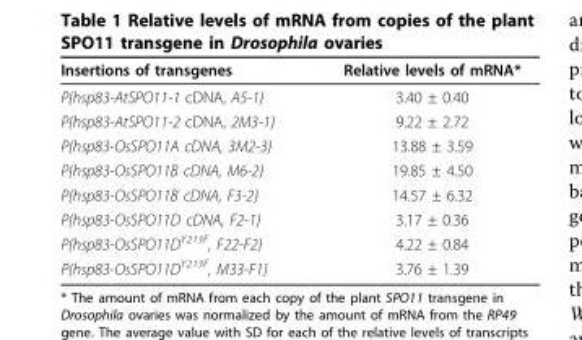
<table><thead><tr><td>Insertions of transgenes</td><td>Relative levels of mRNA*</td></tr></thead><tbody><tr><td>P{hsp83-AtSPO11-1 cDNA, A5-1}</td><td>3.40 ± 0.40</td></tr><tr><td>P{hsp83-AtSPO11-2 cDNA, 2M3-1}</td><td>9.22 ± 2.72</td></tr><tr><td>P{hsp83-OsSPO11A cDNA, 3M2-3}</td><td>13.88 ± 3.59</td></tr><tr><td>P{hsp83-OsSPO11B cDNA, M6-2}</td><td>19.85 ± 4.50</td></tr><tr><td>P{hsp83-OsSPO11B cDNA, F3-2}</td><td>14.57 ± 6.32</td></tr><tr><td>P{hsp83-OsSPO11D cDNA, F2-1}</td><td>3.17 ± 0.36</td></tr><tr><td>P{hsp83-OsSPO11D<sup>Y213F</sup>, F22-F2}</td><td>4.22 ± 0.84</td></tr><tr><td>P{hsp83-OsSPO11D<sup>Y213F</sup>, M33-F1}</td><td>3.76 ± 1.39</td></tr></tbody></table>